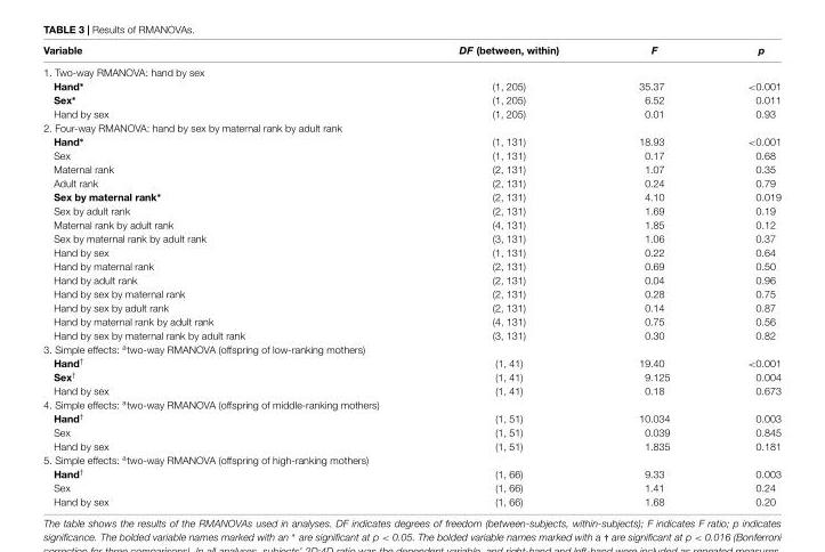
<table><thead><tr><td>Variable</td><td>DF (between, within)</td><td>F</td><td>p</td></tr></thead><tbody><tr><td colspan="4">1. Two-way RMANOVA: hand by sex</td></tr><tr><td>Hand∗</td><td>(1, 205)</td><td>35.37</td><td>&lt;0.001</td></tr><tr><td>Sex∗</td><td>(1, 205)</td><td>6.52</td><td>0.011</td></tr><tr><td>Hand by sex</td><td>(1, 205)</td><td>0.01</td><td>0.93</td></tr><tr><td colspan="4">2. Four-way RMANOVA: hand by sex by maternal rank by adult rank</td></tr><tr><td>Hand∗</td><td>(1, 131)</td><td>18.93</td><td>&lt;0.001</td></tr><tr><td>Sex</td><td>(1, 131)</td><td>0.17</td><td>0.68</td></tr><tr><td>Maternal rank</td><td>(2, 131)</td><td>1.07</td><td>0.35</td></tr><tr><td>Adult rank</td><td>(2, 131)</td><td>0.24</td><td>0.79</td></tr><tr><td>Sex by maternal rank∗</td><td>(2, 131)</td><td>4.10</td><td>0.019</td></tr><tr><td>Sex by adult rank</td><td>(2, 131)</td><td>1.69</td><td>0.19</td></tr><tr><td>Maternal rank by adult rank</td><td>(4, 131)</td><td>1.85</td><td>0.12</td></tr><tr><td>Sex by maternal rank by adult rank</td><td>(3, 131)</td><td>1.06</td><td>0.37</td></tr><tr><td>Hand by sex</td><td>(1, 131)</td><td>0.22</td><td>0.64</td></tr><tr><td>Hand by maternal rank</td><td>(2, 131)</td><td>0.69</td><td>0.50</td></tr><tr><td>Hand by adult rank</td><td>(2, 131)</td><td>0.04</td><td>0.96</td></tr><tr><td>Hand by sex by maternal rank</td><td>(2, 131)</td><td>0.28</td><td>0.75</td></tr><tr><td>Hand by sex by adult rank</td><td>(2, 131)</td><td>0.14</td><td>0.87</td></tr><tr><td>Hand by maternal rank by adult rank</td><td>(4, 131)</td><td>0.75</td><td>0.56</td></tr><tr><td>Hand by sex by maternal rank by adult rank</td><td>(3, 131)</td><td>0.30</td><td>0.82</td></tr><tr><td colspan="4">3. Simple effects: <sup>a</sup>two-way RMANOVA (offspring of low-ranking mothers)</td></tr><tr><td>Hand<sup>†</sup></td><td>(1, 41)</td><td>19.40</td><td>&lt;0.001</td></tr><tr><td>Sex<sup>†</sup></td><td>(1, 41)</td><td>9.125</td><td>0.004</td></tr><tr><td>Hand by sex</td><td>(1, 41)</td><td>0.18</td><td>0.673</td></tr><tr><td colspan="4">4. Simple effects: <sup>a</sup>two-way RMANOVA (offspring of middle-ranking mothers)</td></tr><tr><td>Hand<sup>†</sup></td><td>(1, 51)</td><td>10.034</td><td>0.003</td></tr><tr><td>Sex</td><td>(1, 51)</td><td>0.039</td><td>0.845</td></tr><tr><td>Hand by sex</td><td>(1, 51)</td><td>1.835</td><td>0.181</td></tr><tr><td colspan="4">5. Simple effects: <sup>a</sup>two-way RMANOVA (offspring of high-ranking mothers)</td></tr><tr><td>Hand<sup>†</sup></td><td>(1, 66)</td><td>9.33</td><td>0.003</td></tr><tr><td>Sex</td><td>(1, 66)</td><td>1.41</td><td>0.24</td></tr><tr><td>Hand by sex</td><td>(1, 66)</td><td>1.68</td><td>0.20</td></tr></tbody></table>